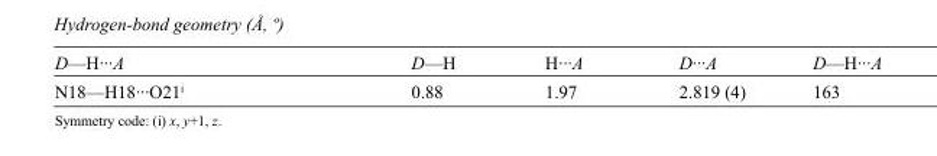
<table><tbody><tr><td>D—H···A</td><td>D—H</td><td>H···A</td><td>D···A</td><td>D—H···A</td></tr><tr><td>N18—H18···O21<sup>i</sup></td><td>0.88</td><td>1.97</td><td>2.819 (4)</td><td>163</td></tr></tbody></table>